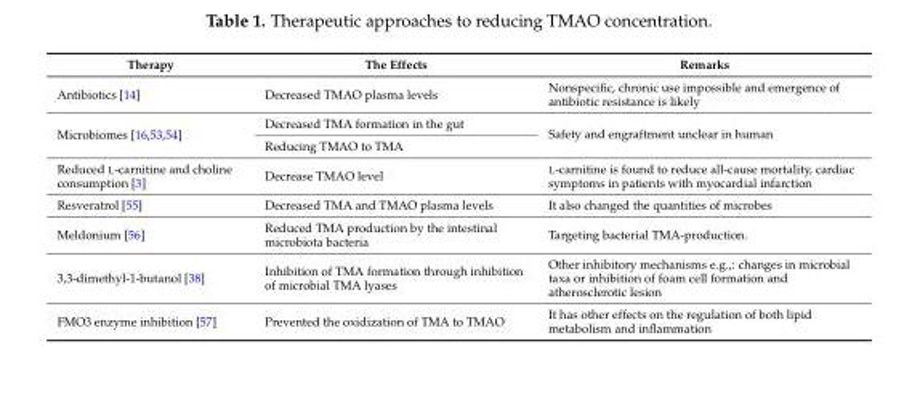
<table><thead><tr><td>Therapy</td><td>The Effects</td><td>Remarks</td></tr></thead><tbody><tr><td>Antibiotics [14]</td><td>Decreased TMAO plasma levels</td><td>Nonspecific, chronic use impossible and emergence of antibiotic resistance is likely</td></tr><tr><td rowspan="2">Microbiomes [16,53,54]</td><td>Decreased TMA formation in the gut</td><td rowspan="2">Safety and engraftment unclear in human</td></tr><tr><td>Reducing TMAO to TMA</td></tr><tr><td>Reduced L-carnitine and choline consumption [3]</td><td>Decrease TMAO level</td><td>L-carnitine is found to reduce all-cause mortality, cardiac symptoms in patients with myocardial infarction</td></tr><tr><td>Resveratrol [55]</td><td>Decreased TMA and TMAO plasma levels</td><td>It also changed the quantities of microbes</td></tr><tr><td>Meldonium [56]</td><td>Reduced TMA production by the intestinal microbiota bacteria</td><td>Targeting bacterial TMA-production.</td></tr><tr><td>3,3-dimethyl-1-butanol [38]</td><td>Inhibition of TMA formation through inhibition of microbial TMA lyases</td><td>Other inhibitory mechanisms e.g.,: changes in microbial taxa or inhibition of foam cell formation and atherosclerotic lesion</td></tr><tr><td>FMO3 enzyme inhibition [57]</td><td>Prevented the oxidization of TMA to TMAO</td><td>It has other effects on the regulation of both lipid metabolism and inflammation</td></tr></tbody></table>